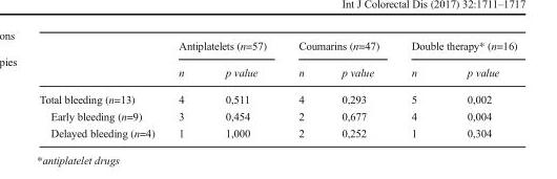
<table><thead><tr><td rowspan="2"></td><td colspan="2">Antiplatelets (n=57)</td><td colspan="2">Coumarins (n=47)</td><td colspan="2">Double therapy* (n=16)</td></tr><tr><td>n</td><td>p value</td><td>n</td><td>p value</td><td>n</td><td>p value</td></tr></thead><tbody><tr><td>Total bleeding (n=13)</td><td>4</td><td>0,511</td><td>4</td><td>0,293</td><td>5</td><td>0,002</td></tr><tr><td>Early bleeding (n=9)</td><td>3</td><td>0,454</td><td>2</td><td>0,677</td><td>4</td><td>0,004</td></tr><tr><td>Delayed bleeding (n=4)</td><td>1</td><td>1,000</td><td>2</td><td>0,252</td><td>1</td><td>0,304</td></tr></tbody></table>